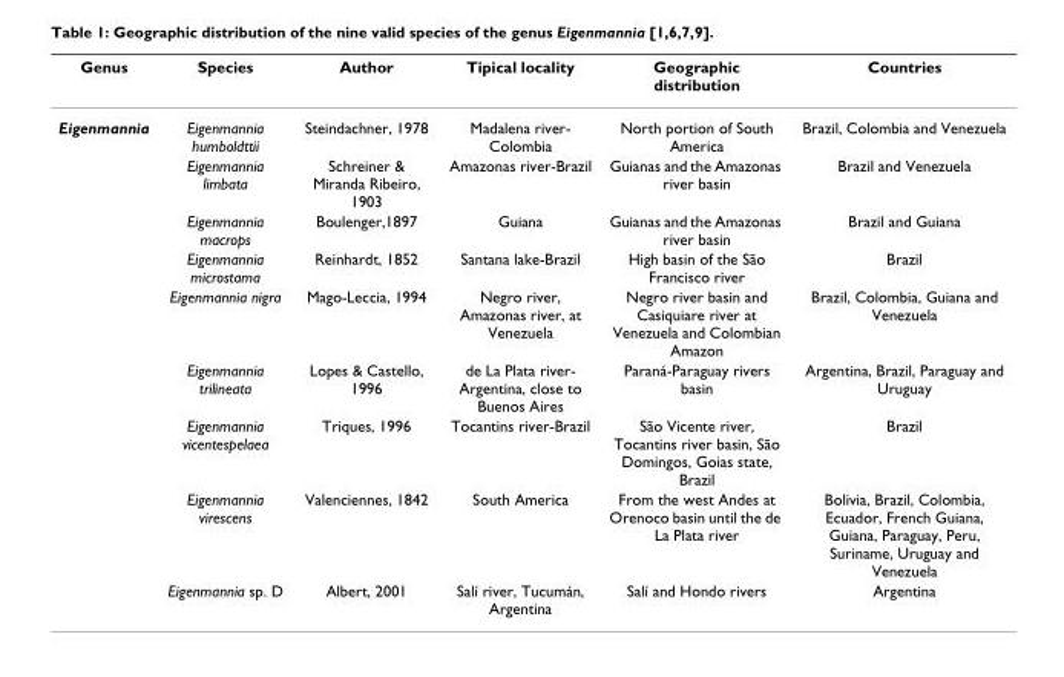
<table><thead><tr><td>Genus</td><td>Species</td><td>Author</td><td>Tipical locality</td><td>Geographic distribution</td><td>Countries</td></tr></thead><tbody><tr><td rowspan="9">Eigenmannia</td><td>Eigenmannia humboldttii</td><td>Steindachner, 1978</td><td>Madalena river- Colombia</td><td>North portion of South America</td><td>Brazil, Colombia and Venezuela</td></tr><tr><td>Eigenmannia limbata</td><td>Schreiner &amp; Miranda Ribeiro, 1903</td><td>Amazonas river-Brazil</td><td>Guianas and the Amazonas river basin</td><td>Brazil and Venezuela</td></tr><tr><td>Eigenmannia macrops</td><td>Boulenger,1897</td><td>Guiana</td><td>Guianas and the Amazonas river basin</td><td>Brazil and Guiana</td></tr><tr><td>Eigenmannia microstama</td><td>Reinhardt, 1852</td><td>Santana lake-Brazil</td><td>High basin of the São Francisco river</td><td>Brazil</td></tr><tr><td>Eigenmannia nigra</td><td>Mago-Leccia, 1994</td><td>Negro river, Amazonas river, at Venezuela</td><td>Negro river basin and Casiquiare river at Venezuela and Colombian Amazon</td><td>Brazil, Colombia, Guiana and Venezuela</td></tr><tr><td>Eigenmannia trilineata</td><td>Lopes &amp; Castello, 1996</td><td>de La Plata river- Argentina, close to Buenos Aires</td><td>Paraná-Paraguay rivers basin</td><td>Argentina, Brazil, Paraguay and Uruguay</td></tr><tr><td>Eigenmannia vicentespelaea</td><td>Triques, 1996</td><td>Tocantins river-Brazil</td><td>São Vicente river, Tocantins river basin, São Domingos, Goias state, Brazil</td><td>Brazil</td></tr><tr><td>Eigenmannia virescens</td><td>Valenciennes, 1842</td><td>South America</td><td>From the west Andes at Orenoco basin until the de La Plata river</td><td>Bolivia, Brazil, Colombia, Ecuador, French Guiana, Guiana, Paraguay, Peru, Suriname, Uruguay and Venezuela</td></tr><tr><td>Eigenmannia sp. D</td><td>Albert, 2001</td><td>Salí river, Tucumán, Argentina</td><td>Salí and Hondo rivers</td><td>Argentina</td></tr></tbody></table>